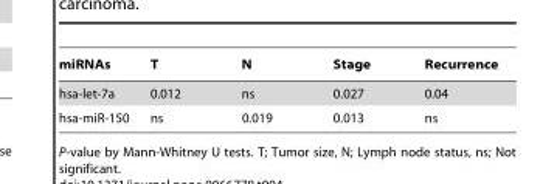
<table><thead><tr><td>miRNAs</td><td>T</td><td>N</td><td>Stage</td><td>Recurrence</td></tr></thead><tbody><tr><td>hsa-let-7a</td><td>0.012</td><td>ns</td><td>0.027</td><td>0.04</td></tr><tr><td>hsa-miR-150</td><td>ns</td><td>0.019</td><td>0.013</td><td>ns</td></tr></tbody></table>